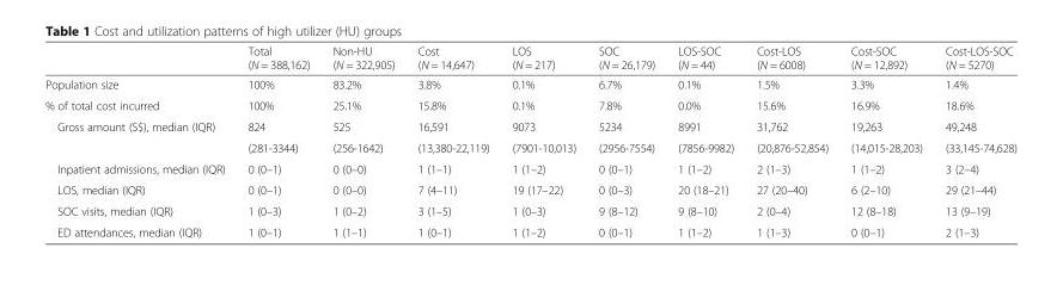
<table><thead><tr><td></td><td>Total (N = 388,162)</td><td>Non-HU (N = 322,905)</td><td>Cost (N = 14,647)</td><td>LOS (N = 217)</td><td>SOC (N = 26,179)</td><td>LOS-SOC (N = 44)</td><td>Cost-LOS (N = 6008)</td><td>Cost-SOC (N = 12,892)</td><td>Cost-LOS-SOC (N = 5270)</td></tr></thead><tbody><tr><td>Population size</td><td>100%</td><td>83.2%</td><td>3.8%</td><td>0.1%</td><td>6.7%</td><td>0.1%</td><td>1.5%</td><td>3.3%</td><td>1.4%</td></tr><tr><td>% of total cost incurred</td><td>100%</td><td>25.1%</td><td>15.8%</td><td>0.1%</td><td>7.8%</td><td>0.0%</td><td>15.6%</td><td>16.9%</td><td>18.6%</td></tr><tr><td rowspan="2">Gross amount (S$), median (IQR)</td><td>824</td><td>525</td><td>16,591</td><td>9073</td><td>5234</td><td>8991</td><td>31,762</td><td>19,263</td><td>49,248</td></tr><tr><td>(281-3344)</td><td>(256-1642)</td><td>(13,380-22,119)</td><td>(7901-10,013)</td><td>(2956-7554)</td><td>(7856-9982)</td><td>(20,876-52,854)</td><td>(14,015-28,203)</td><td>(33,145-74,628)</td></tr><tr><td>Inpatient admissions, median (IQR)</td><td>0 (0–1)</td><td>0 (0–0)</td><td>1 (1–1)</td><td>1 (1–2)</td><td>0 (0–1)</td><td>1 (1–2)</td><td>2 (1–3)</td><td>1 (1–2)</td><td>3 (2–4)</td></tr><tr><td>LOS, median (IQR)</td><td>0 (0–1)</td><td>0 (0–0)</td><td>7 (4–11)</td><td>19 (17–22)</td><td>0 (0–3)</td><td>20 (18–21)</td><td>27 (20–40)</td><td>6 (2–10)</td><td>29 (21–44)</td></tr><tr><td>SOC visits, median (IQR)</td><td>1 (0–3)</td><td>1 (0–2)</td><td>3 (1–5)</td><td>1 (0–3)</td><td>9 (8–12)</td><td>9 (8–10)</td><td>2 (0–4)</td><td>12 (8–18)</td><td>13 (9–19)</td></tr><tr><td>ED attendances, median (IQR)</td><td>1 (0–1)</td><td>1 (1–1)</td><td>1 (0–1)</td><td>1 (1–2)</td><td>0 (0–1)</td><td>1 (1–2)</td><td>1 (1–3)</td><td>0 (0–1)</td><td>2 (1–3)</td></tr></tbody></table>